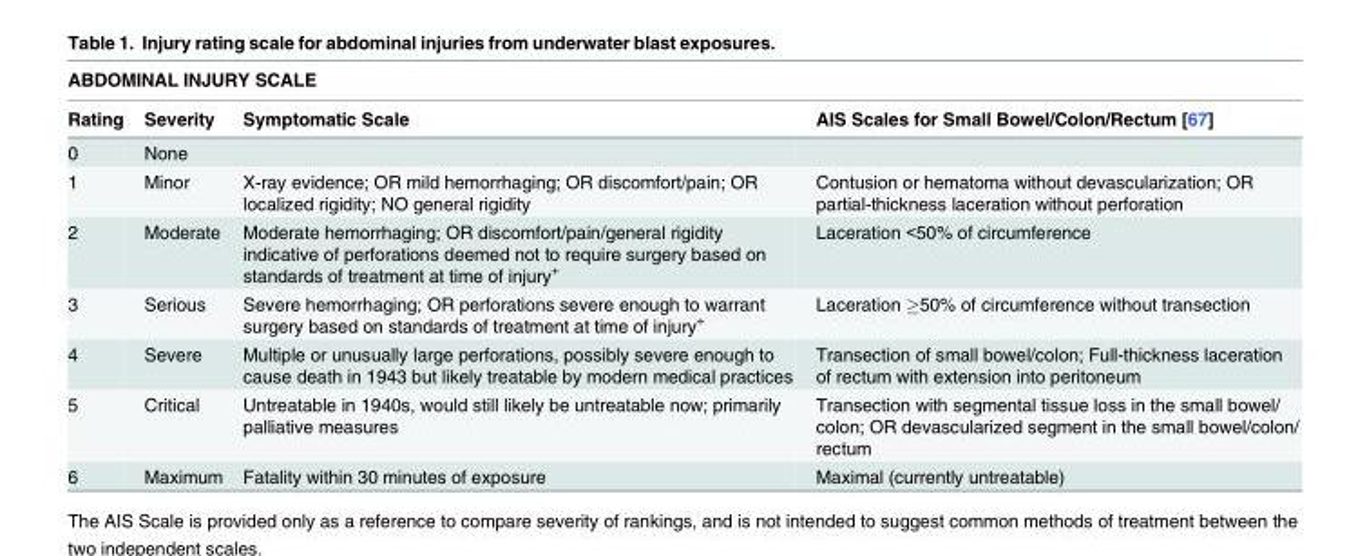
<table><thead><tr><td colspan="4">ABDOMINAL INJURY SCALE</td></tr><tr><td>Rating</td><td>Severity</td><td>Symptomatic Scale</td><td>AIS Scales for Small Bowel/Colon/Rectum [67]</td></tr></thead><tbody><tr><td>0</td><td>None</td><td></td><td></td></tr><tr><td>1</td><td>Minor</td><td>X-ray evidence; OR mild hemorrhaging; OR discomfort/pain; OR localized rigidity; NO general rigidity</td><td>Contusion or hematoma without devascularization; OR partial-thickness laceration without perforation</td></tr><tr><td>2</td><td>Moderate</td><td>Moderate hemorrhaging; OR discomfort/pain/general rigidity indicative of perforations deemed not to require surgery based on standards of treatment at time of injury<sup>+</sup></td><td>Laceration &lt;50% of circumference</td></tr><tr><td>3</td><td>Serious</td><td>Severe hemorrhaging; OR perforations severe enough to warrant surgery based on standards of treatment at time of injury<sup>+</sup></td><td>Laceration ≥50% of circumference without transection</td></tr><tr><td>4</td><td>Severe</td><td>Multiple or unusually large perforations, possibly severe enough to cause death in 1943 but likely treatable by modern medical practices</td><td>Transection of small bowel/colon; Full-thickness laceration of rectum with extension into peritoneum</td></tr><tr><td>5</td><td>Critical</td><td>Untreatable in 1940s, would still likely be untreatable now; primarily palliative measures</td><td>Transection with segmental tissue loss in the small bowel/ colon; OR devascularized segment in the small bowel/colon/ rectum</td></tr><tr><td>6</td><td>Maximum</td><td>Fatality within 30 minutes of exposure</td><td>Maximal (currently untreatable)</td></tr></tbody></table>